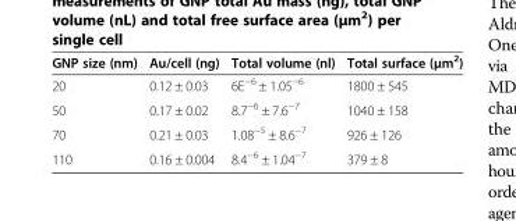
<table><thead><tr><td>GNP size (nm)</td><td>Au/cell (ng)</td><td>Total volume (nl)</td><td>Total surface (μm<sup>2</sup>)</td></tr></thead><tbody><tr><td>20</td><td>0.12 ± 0.03</td><td>6E<sup>−6</sup> ± 1.05<sup>−6</sup></td><td>1800 ± 545</td></tr><tr><td>50</td><td>0.17 ± 0.02</td><td>8.7<sup>−6</sup> ± 7.6<sup>−7</sup></td><td>1040 ± 158</td></tr><tr><td>70</td><td>0.21 ± 0.03</td><td>1.08<sup>−5</sup> ± 8.6<sup>−7</sup></td><td>926 ± 126</td></tr><tr><td>110</td><td>0.16 ± 0.004</td><td>8.4<sup>−6</sup> ± 1.04<sup>−7</sup></td><td>379 ± 8</td></tr></tbody></table>